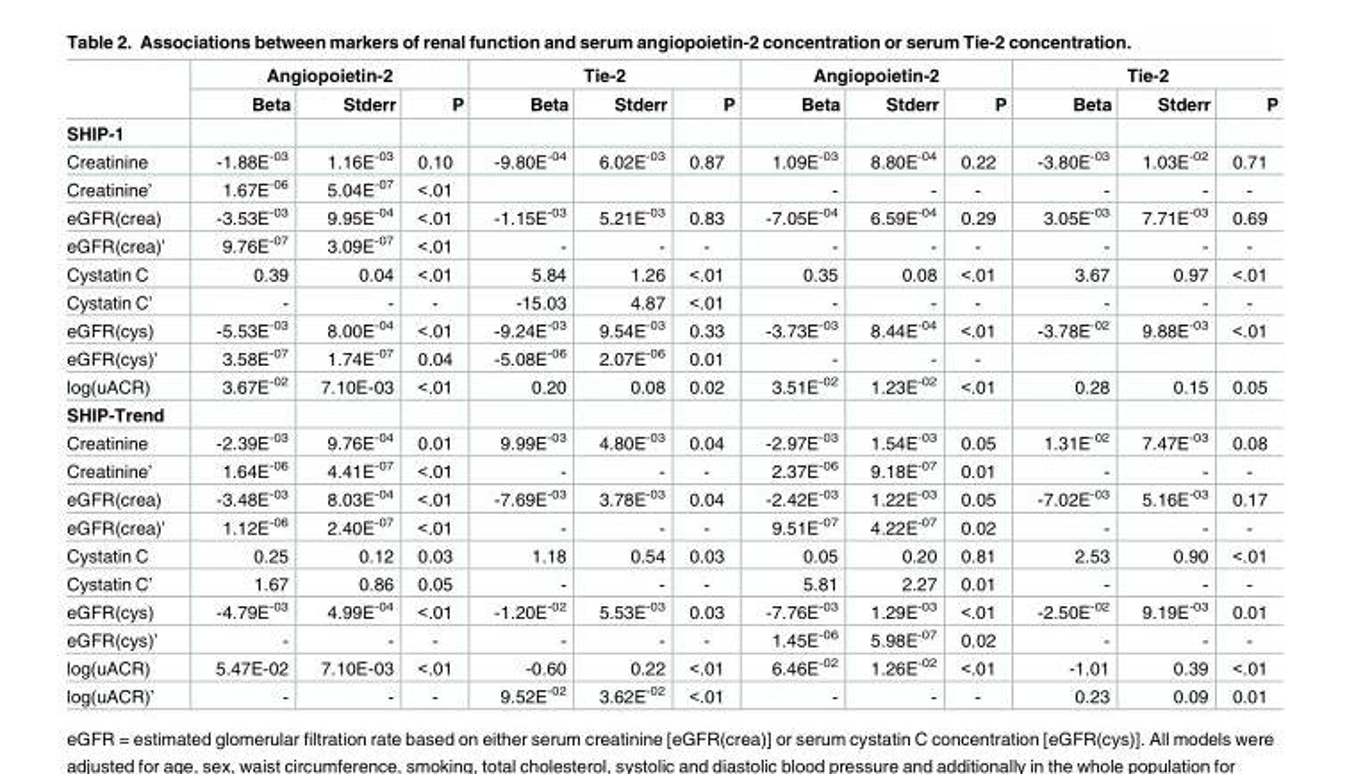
<table><thead><tr><td rowspan="2"></td><td colspan="3">Angiopoietin-2</td><td colspan="3">Tie-2</td><td colspan="3">Angiopoietin-2</td><td colspan="3">Tie-2</td></tr><tr><td>Beta</td><td>Stderr</td><td>P</td><td>Beta</td><td>Stderr</td><td>P</td><td>Beta</td><td>Stderr</td><td>P</td><td>Beta</td><td>Stderr</td><td>P</td></tr></thead><tbody><tr><td colspan="13">SHIP-1</td></tr><tr><td>Creatinine</td><td>-1.88E<sup>-03</sup></td><td>1.16E<sup>-03</sup></td><td>0.10</td><td>-9.80E<sup>-04</sup></td><td>6.02E<sup>-03</sup></td><td>0.87</td><td>1.09E<sup>-03</sup></td><td>8.80E<sup>-04</sup></td><td>0.22</td><td>-3.80E<sup>-03</sup></td><td>1.03E<sup>-02</sup></td><td>0.71</td></tr><tr><td>Creatinine’</td><td>1.67E<sup>-06</sup></td><td>5.04E<sup>-07</sup></td><td>&lt;.01</td><td></td><td></td><td></td><td>-</td><td>-</td><td>-</td><td>-</td><td>-</td><td>-</td></tr><tr><td>eGFR(crea)</td><td>-3.53E<sup>-03</sup></td><td>9.95E<sup>-04</sup></td><td>&lt;.01</td><td>-1.15E<sup>-03</sup></td><td>5.21E<sup>-03</sup></td><td>0.83</td><td>-7.05E<sup>-04</sup></td><td>6.59E<sup>-04</sup></td><td>0.29</td><td>3.05E<sup>-03</sup></td><td>7.71E<sup>-03</sup></td><td>0.69</td></tr><tr><td>eGFR(crea)’</td><td>9.76E<sup>-07</sup></td><td>3.09E<sup>-07</sup></td><td>&lt;.01</td><td>-</td><td>-</td><td>-</td><td>-</td><td>-</td><td>-</td><td>-</td><td>-</td><td>-</td></tr><tr><td>Cystatin C</td><td>0.39</td><td>0.04</td><td>&lt;.01</td><td>5.84</td><td>1.26</td><td>&lt;.01</td><td>0.35</td><td>0.08</td><td>&lt;.01</td><td>3.67</td><td>0.97</td><td>&lt;.01</td></tr><tr><td>Cystatin C’</td><td>-</td><td>-</td><td>-</td><td>-15.03</td><td>4.87</td><td>&lt;.01</td><td>-</td><td>-</td><td>-</td><td>-</td><td>-</td><td>-</td></tr><tr><td>eGFR(cys)</td><td>-5.53E<sup>-03</sup></td><td>8.00E<sup>-04</sup></td><td>&lt;.01</td><td>-9.24E<sup>-03</sup></td><td>9.54E<sup>-03</sup></td><td>0.33</td><td>-3.73E<sup>-03</sup></td><td>8.44E<sup>-04</sup></td><td>&lt;.01</td><td>-3.78E<sup>-02</sup></td><td>9.88E<sup>-03</sup></td><td>&lt;.01</td></tr><tr><td>eGFR(cys)’</td><td>3.58E<sup>-07</sup></td><td>1.74E<sup>-07</sup></td><td>0.04</td><td>-5.08E<sup>-06</sup></td><td>2.07E<sup>-06</sup></td><td>0.01</td><td>-</td><td>-</td><td>-</td><td></td><td></td><td></td></tr><tr><td>log(uACR)</td><td>3.67E<sup>-02</sup></td><td>7.10E-03</td><td>&lt;.01</td><td>0.20</td><td>0.08</td><td>0.02</td><td>3.51E<sup>-02</sup></td><td>1.23E<sup>-02</sup></td><td>&lt;.01</td><td>0.28</td><td>0.15</td><td>0.05</td></tr><tr><td colspan="13">SHIP-Trend</td></tr><tr><td>Creatinine</td><td>-2.39E<sup>-03</sup></td><td>9.76E<sup>-04</sup></td><td>0.01</td><td>9.99E<sup>-03</sup></td><td>4.80E<sup>-03</sup></td><td>0.04</td><td>-2.97E<sup>-03</sup></td><td>1.54E<sup>-03</sup></td><td>0.05</td><td>1.31E<sup>-02</sup></td><td>7.47E<sup>-03</sup></td><td>0.08</td></tr><tr><td>Creatinine’</td><td>1.64E<sup>-06</sup></td><td>4.41E<sup>-07</sup></td><td>&lt;.01</td><td>-</td><td>-</td><td>-</td><td>2.37E<sup>-06</sup></td><td>9.18E<sup>-07</sup></td><td>0.01</td><td>-</td><td>-</td><td>-</td></tr><tr><td>eGFR(crea)</td><td>-3.48E<sup>-03</sup></td><td>8.03E<sup>-04</sup></td><td>&lt;.01</td><td>-7.69E<sup>-03</sup></td><td>3.78E<sup>-03</sup></td><td>0.04</td><td>-2.42E<sup>-03</sup></td><td>1.22E<sup>-03</sup></td><td>0.05</td><td>-7.02E<sup>-03</sup></td><td>5.16E<sup>-03</sup></td><td>0.17</td></tr><tr><td>eGFR(crea)’</td><td>1.12E<sup>-06</sup></td><td>2.40E<sup>-07</sup></td><td>&lt;.01</td><td>-</td><td>-</td><td>-</td><td>9.51E<sup>-07</sup></td><td>4.22E<sup>-07</sup></td><td>0.02</td><td>-</td><td>-</td><td>-</td></tr><tr><td>Cystatin C</td><td>0.25</td><td>0.12</td><td>0.03</td><td>1.18</td><td>0.54</td><td>0.03</td><td>0.05</td><td>0.20</td><td>0.81</td><td>2.53</td><td>0.90</td><td>&lt;.01</td></tr><tr><td>Cystatin C’</td><td>1.67</td><td>0.86</td><td>0.05</td><td>-</td><td>-</td><td>-</td><td>5.81</td><td>2.27</td><td>0.01</td><td>-</td><td>-</td><td>-</td></tr><tr><td>eGFR(cys)</td><td>-4.79E<sup>-03</sup></td><td>4.99E<sup>-04</sup></td><td>&lt;.01</td><td>-1.20E<sup>-02</sup></td><td>5.53E<sup>-03</sup></td><td>0.03</td><td>-7.76E<sup>-03</sup></td><td>1.29E<sup>-03</sup></td><td>&lt;.01</td><td>-2.50E<sup>-02</sup></td><td>9.19E<sup>-03</sup></td><td>0.01</td></tr><tr><td>eGFR(cys)’</td><td>-</td><td>-</td><td>-</td><td>-</td><td>-</td><td>-</td><td>1.45E<sup>-06</sup></td><td>5.98E<sup>-07</sup></td><td>0.02</td><td>-</td><td>-</td><td>-</td></tr><tr><td>log(uACR)</td><td>5.47E-02</td><td>7.10E-03</td><td>&lt;.01</td><td>-0.60</td><td>0.22</td><td>&lt;.01</td><td>6.46E<sup>-02</sup></td><td>1.26E<sup>-02</sup></td><td>&lt;.01</td><td>-1.01</td><td>0.39</td><td>&lt;.01</td></tr><tr><td>log(uACR)’</td><td>-</td><td>-</td><td>-</td><td>9.52E<sup>-02</sup></td><td>3.62E<sup>-02</sup></td><td>&lt;.01</td><td>-</td><td>-</td><td>-</td><td>0.23</td><td>0.09</td><td>0.01</td></tr></tbody></table>